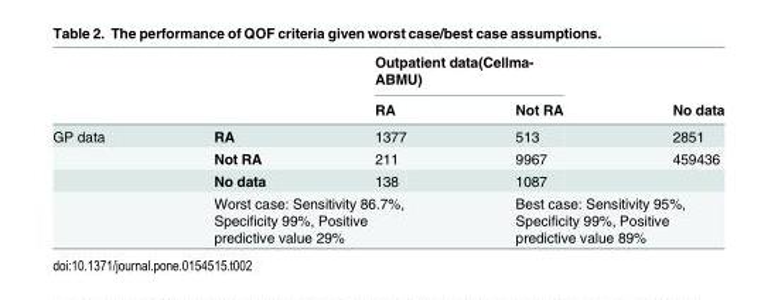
<table><thead><tr><td rowspan="2"></td><td rowspan="2"></td><td colspan="2">Outpatient data(Cellma- ABMU)</td><td rowspan="2">No data</td></tr><tr><td>RA</td><td>Not RA</td></tr></thead><tbody><tr><td rowspan="4">GP data</td><td>RA</td><td>1377</td><td>513</td><td>2851</td></tr><tr><td>Not RA</td><td>211</td><td>9967</td><td>459436</td></tr><tr><td>No data</td><td>138</td><td>1087</td><td></td></tr><tr><td colspan="2">Worst case: Sensitivity 86.7%, Specificity 99%, Positive predictive value 29%</td><td colspan="2">Best case: Sensitivity 95%, Specificity 99%, Positive predictive value 89%</td></tr></tbody></table>